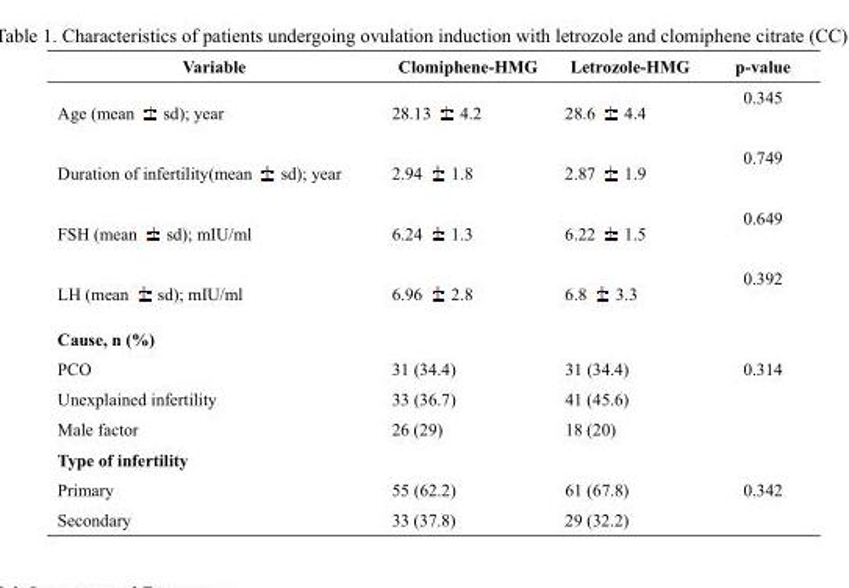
<table><thead><tr><td>Variable</td><td>Clomiphene-HMG</td><td>Letrozole-HMG</td><td>p-value</td></tr></thead><tbody><tr><td>Age (mean sd); year</td><td>28.13 4.2</td><td>28.6 4.4</td><td>0.345</td></tr><tr><td>Duration of infertility(mean sd); year</td><td>2.94 1.8</td><td>2.87 1.9</td><td>0.749</td></tr><tr><td>FSH (mean sd); mIU/ml</td><td>6.24 1.3</td><td>6.22 1.5</td><td>0.649</td></tr><tr><td>LH (mean sd); mIU/ml</td><td>6.96 2.8</td><td>6.8 3.3</td><td>0.392</td></tr><tr><td colspan="4">Cause, n (%)</td></tr><tr><td>PCO</td><td>31 (34.4)</td><td>31 (34.4)</td><td>0.314</td></tr><tr><td>Unexplained infertility</td><td>33 (36.7)</td><td>41 (45.6)</td><td></td></tr><tr><td>Male factor</td><td>26 (29)</td><td>18 (20)</td><td></td></tr><tr><td colspan="4">Type of infertility</td></tr><tr><td>Primary</td><td>55 (62.2)</td><td>61 (67.8)</td><td>0.342</td></tr><tr><td>Secondary</td><td>33 (37.8)</td><td>29 (32.2)</td><td></td></tr></tbody></table>